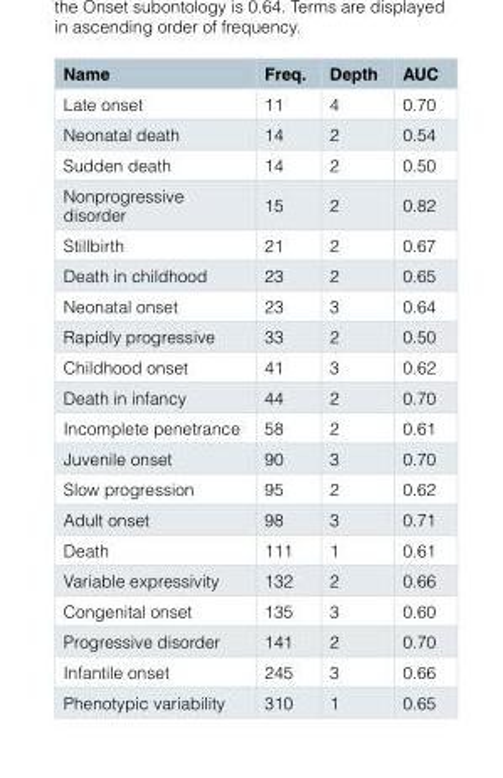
<table><thead><tr><td>Name</td><td>Freq.</td><td>Depth</td><td>AUC</td></tr></thead><tbody><tr><td>Late onset</td><td>11</td><td>4</td><td>0.70</td></tr><tr><td>Neonatal death</td><td>14</td><td>2</td><td>0.54</td></tr><tr><td>Sudden death</td><td>14</td><td>2</td><td>0.50</td></tr><tr><td>Nonprogressive disorder</td><td>15</td><td>2</td><td>0.82</td></tr><tr><td>Stillbirth</td><td>21</td><td>2</td><td>0.67</td></tr><tr><td>Death in childhood</td><td>23</td><td>2</td><td>0.65</td></tr><tr><td>Neonatal onset</td><td>23</td><td>3</td><td>0.64</td></tr><tr><td>Rapidly progressive</td><td>33</td><td>2</td><td>0.50</td></tr><tr><td>Childhood onset</td><td>41</td><td>3</td><td>0.62</td></tr><tr><td>Death in infancy</td><td>44</td><td>2</td><td>0.70</td></tr><tr><td>Incomplete penetrance</td><td>58</td><td>2</td><td>0.61</td></tr><tr><td>Juvenile onset</td><td>90</td><td>3</td><td>0.70</td></tr><tr><td>Slow progression</td><td>95</td><td>2</td><td>0.62</td></tr><tr><td>Adult onset</td><td>98</td><td>3</td><td>0.71</td></tr><tr><td>Death</td><td>111</td><td>1</td><td>0.61</td></tr><tr><td>Variable expressivity</td><td>132</td><td>2</td><td>0.66</td></tr><tr><td>Congenital onset</td><td>135</td><td>3</td><td>0.60</td></tr><tr><td>Progressive disorder</td><td>141</td><td>2</td><td>0.70</td></tr><tr><td>Infantile onset</td><td>245</td><td>3</td><td>0.66</td></tr><tr><td>Phenotypic variability</td><td>310</td><td>1</td><td>0.65</td></tr></tbody></table>